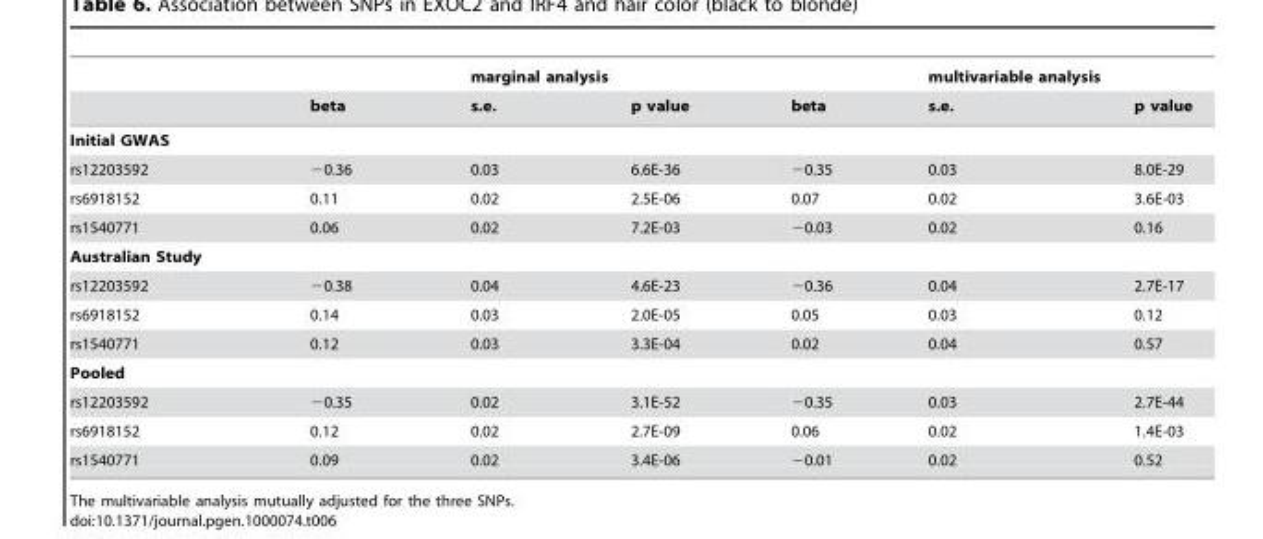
<table><thead><tr><td rowspan="2"></td><td rowspan="2">beta</td><td rowspan="2">marginal analysis s.e.</td><td rowspan="2">p value</td><td rowspan="2">beta</td><td rowspan="2">multivariable analysis s.e.</td><td rowspan="2">p value</td></tr><tr></tr></thead><tbody><tr><td colspan="7">Initial GWAS</td></tr><tr><td>rs12203592</td><td>−0.36</td><td>0.03</td><td>6.6E-36</td><td>−0.35</td><td>0.03</td><td>8.0E-29</td></tr><tr><td>rs6918152</td><td>0.11</td><td>0.02</td><td>2.5E-06</td><td>0.07</td><td>0.02</td><td>3.6E-03</td></tr><tr><td>rs1540771</td><td>0.06</td><td>0.02</td><td>7.2E-03</td><td>−0.03</td><td>0.02</td><td>0.16</td></tr><tr><td colspan="7">Australian Study</td></tr><tr><td>rs12203592</td><td>−0.38</td><td>0.04</td><td>4.6E-23</td><td>−0.36</td><td>0.04</td><td>2.7E-17</td></tr><tr><td>rs6918152</td><td>0.14</td><td>0.03</td><td>2.0E-05</td><td>0.05</td><td>0.03</td><td>0.12</td></tr><tr><td>rs1540771</td><td>0.12</td><td>0.03</td><td>3.3E-04</td><td>0.02</td><td>0.04</td><td>0.57</td></tr><tr><td colspan="7">Pooled</td></tr><tr><td>rs12203592</td><td>−0.35</td><td>0.02</td><td>3.1E-52</td><td>−0.35</td><td>0.03</td><td>2.7E-44</td></tr><tr><td>rs6918152</td><td>0.12</td><td>0.02</td><td>2.7E-09</td><td>0.06</td><td>0.02</td><td>1.4E-03</td></tr><tr><td>rs1540771</td><td>0.09</td><td>0.02</td><td>3.4E-06</td><td>−0.01</td><td>0.02</td><td>0.52</td></tr></tbody></table>